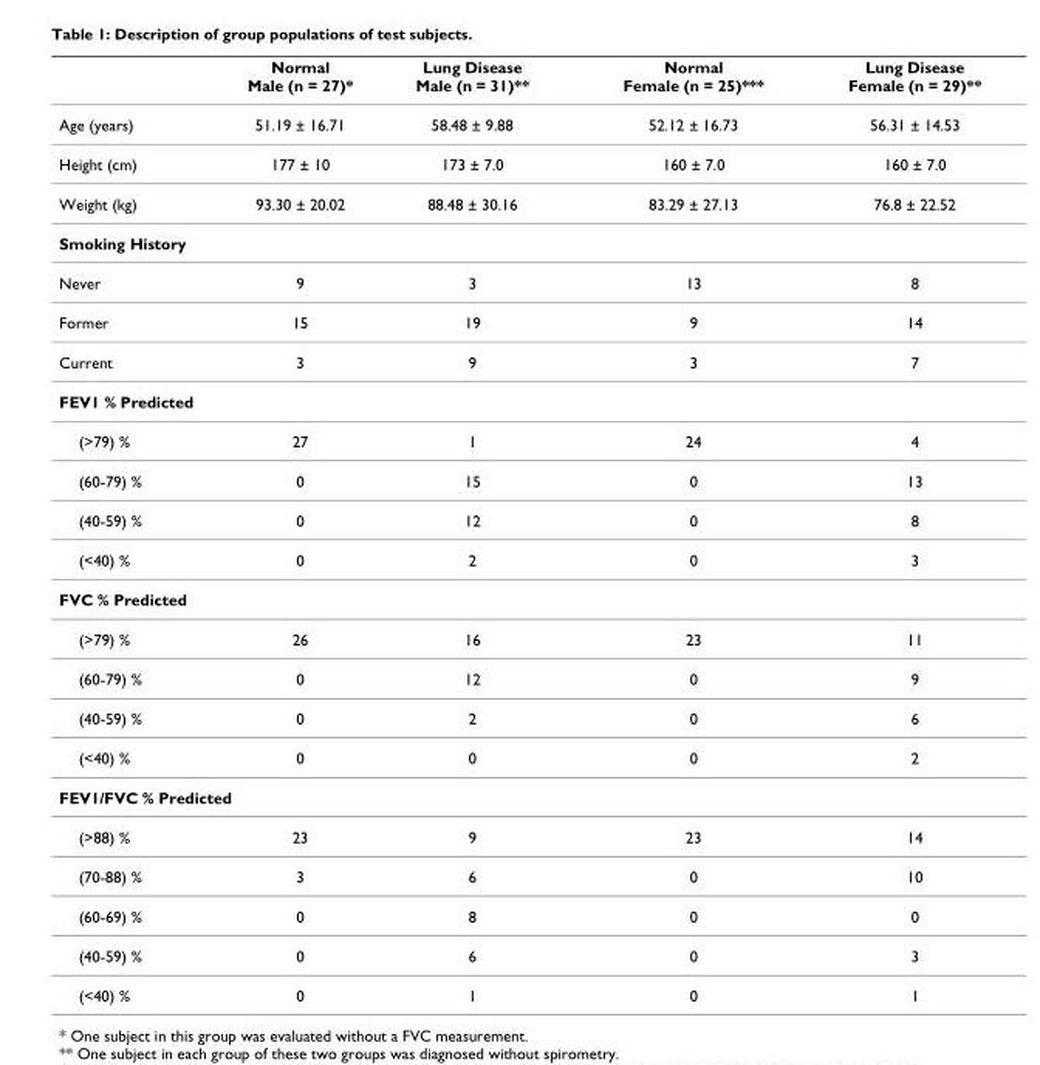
<table><thead><tr><td></td><td>Normal Male (n = 27)*</td><td>Lung Disease Male (n = 31)**</td><td>Normal Female (n = 25)***</td><td>Lung Disease Female (n = 29)**</td></tr></thead><tbody><tr><td>Age (years)</td><td>51.19 ± 16.71</td><td>58.48 ± 9.88</td><td>52.12 ± 16.73</td><td>56.31 ± 14.53</td></tr><tr><td>Height (cm)</td><td>177 ± 10</td><td>173 ± 7.0</td><td>160 ± 7.0</td><td>160 ± 7.0</td></tr><tr><td>Weight (kg)</td><td>93.30 ± 20.02</td><td>88.48 ± 30.16</td><td>83.29 ± 27.13</td><td>76.8 ± 22.52</td></tr><tr><td colspan="5">Smoking History</td></tr><tr><td>Never</td><td>9</td><td>3</td><td>13</td><td>8</td></tr><tr><td>Former</td><td>15</td><td>19</td><td>9</td><td>14</td></tr><tr><td>Current</td><td>3</td><td>9</td><td>3</td><td>7</td></tr><tr><td colspan="5">FEV1 % Predicted</td></tr><tr><td>(&gt;79) %</td><td>27</td><td>1</td><td>24</td><td>4</td></tr><tr><td>(60-79) %</td><td>0</td><td>15</td><td>0</td><td>13</td></tr><tr><td>(40-59) %</td><td>0</td><td>12</td><td>0</td><td>8</td></tr><tr><td>(&lt;40) %</td><td>0</td><td>2</td><td>0</td><td>3</td></tr><tr><td colspan="5">FVC % Predicted</td></tr><tr><td>(&gt;79) %</td><td>26</td><td>16</td><td>23</td><td>11</td></tr><tr><td>(60-79) %</td><td>0</td><td>12</td><td>0</td><td>9</td></tr><tr><td>(40-59) %</td><td>0</td><td>2</td><td>0</td><td>6</td></tr><tr><td>(&lt;40) %</td><td>0</td><td>0</td><td>0</td><td>2</td></tr><tr><td colspan="5">FEV1/FVC % Predicted</td></tr><tr><td>(&gt;88) %</td><td>23</td><td>9</td><td>23</td><td>14</td></tr><tr><td>(70-88) %</td><td>3</td><td>6</td><td>0</td><td>10</td></tr><tr><td>(60-69) %</td><td>0</td><td>8</td><td>0</td><td>0</td></tr><tr><td>(40-59) %</td><td>0</td><td>6</td><td>0</td><td>3</td></tr><tr><td>(&lt;40) %</td><td>0</td><td>1</td><td>0</td><td>1</td></tr></tbody></table>